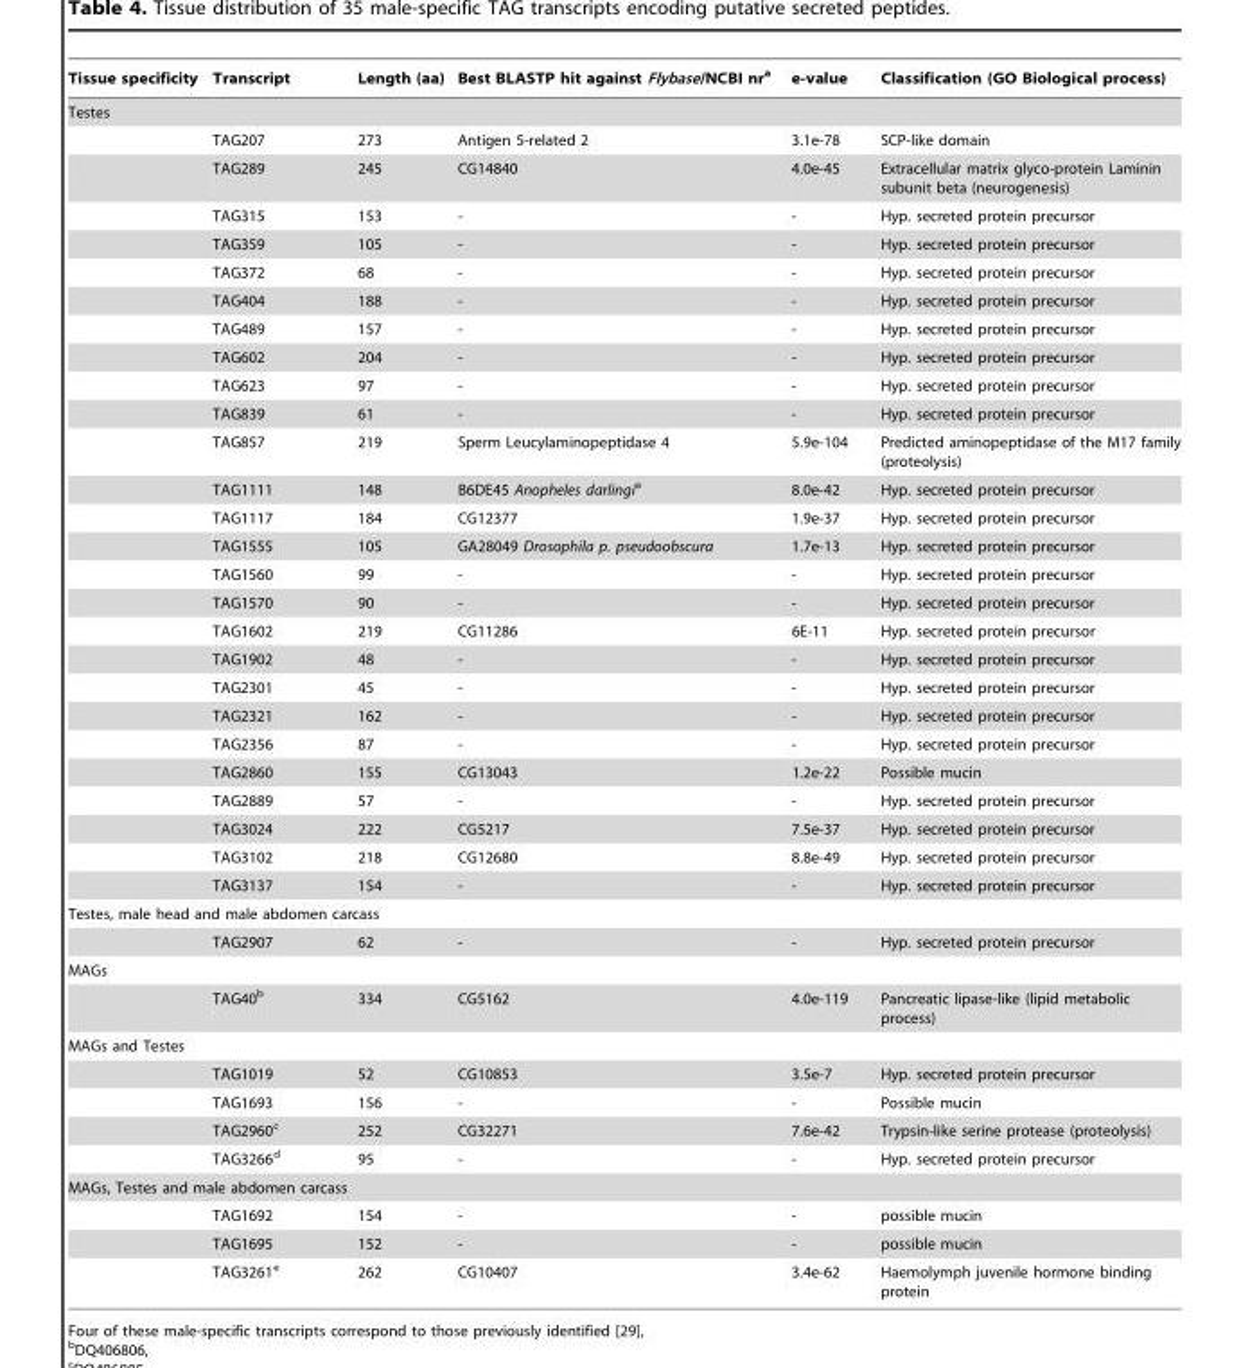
<table><thead><tr><td>Tissue specificity</td><td>Transcript</td><td>Length (aa)</td><td>Best BLASTP hit against Flybase/NCBI nr<sup>a</sup></td><td>e-value</td><td>Classification (GO Biological process)</td></tr></thead><tbody><tr><td colspan="6">Testes</td></tr><tr><td></td><td>TAG207</td><td>273</td><td>Antigen 5-related 2</td><td>3.1e-78</td><td>SCP-like domain</td></tr><tr><td></td><td>TAG289</td><td>245</td><td>CG14840</td><td>4.0e-45</td><td>Extracellular matrix glyco-protein Laminin subunit beta (neurogenesis)</td></tr><tr><td></td><td>TAG315</td><td>153</td><td>-</td><td>-</td><td>Hyp. secreted protein precursor</td></tr><tr><td></td><td>TAG359</td><td>105</td><td>-</td><td>-</td><td>Hyp. secreted protein precursor</td></tr><tr><td></td><td>TAG372</td><td>68</td><td>-</td><td>-</td><td>Hyp. secreted protein precursor</td></tr><tr><td></td><td>TAG404</td><td>188</td><td>-</td><td>-</td><td>Hyp. secreted protein precursor</td></tr><tr><td></td><td>TAG489</td><td>157</td><td>-</td><td>-</td><td>Hyp. secreted protein precursor</td></tr><tr><td></td><td>TAG602</td><td>204</td><td>-</td><td>-</td><td>Hyp. secreted protein precursor</td></tr><tr><td></td><td>TAG623</td><td>97</td><td>-</td><td>-</td><td>Hyp. secreted protein precursor</td></tr><tr><td></td><td>TAG839</td><td>61</td><td>-</td><td>-</td><td>Hyp. secreted protein precursor</td></tr><tr><td></td><td>TAG857</td><td>219</td><td>Sperm Leucylaminopeptidase 4</td><td>5.9e-104</td><td>Predicted aminopeptidase of the M17 family (proteolysis)</td></tr><tr><td></td><td>TAG1111</td><td>148</td><td>B6DE45 Anopheles darlingi<sup>a</sup></td><td>8.0e-42</td><td>Hyp. secreted protein precursor</td></tr><tr><td></td><td>TAG1117</td><td>184</td><td>CG12377</td><td>1.9e-37</td><td>Hyp. secreted protein precursor</td></tr><tr><td></td><td>TAG1555</td><td>105</td><td>GA28049 Drosophila p. pseudoobscura</td><td>1.7e-13</td><td>Hyp. secreted protein precursor</td></tr><tr><td></td><td>TAG1560</td><td>99</td><td>-</td><td>-</td><td>Hyp. secreted protein precursor</td></tr><tr><td></td><td>TAG1570</td><td>90</td><td>-</td><td>-</td><td>Hyp. secreted protein precursor</td></tr><tr><td></td><td>TAG1602</td><td>219</td><td>CG11286</td><td>6E-11</td><td>Hyp. secreted protein precursor</td></tr><tr><td></td><td>TAG1902</td><td>48</td><td>-</td><td>-</td><td>Hyp. secreted protein precursor</td></tr><tr><td></td><td>TAG2301</td><td>45</td><td>-</td><td>-</td><td>Hyp. secreted protein precursor</td></tr><tr><td></td><td>TAG2321</td><td>162</td><td>-</td><td>-</td><td>Hyp. secreted protein precursor</td></tr><tr><td></td><td>TAG2356</td><td>87</td><td>-</td><td>-</td><td>Hyp. secreted protein precursor</td></tr><tr><td></td><td>TAG2860</td><td>155</td><td>CG13043</td><td>1.2e-22</td><td>Possible mucin</td></tr><tr><td></td><td>TAG2889</td><td>57</td><td>-</td><td>-</td><td>Hyp. secreted protein precursor</td></tr><tr><td></td><td>TAG3024</td><td>222</td><td>CG5217</td><td>7.5e-37</td><td>Hyp. secreted protein precursor</td></tr><tr><td></td><td>TAG3102</td><td>218</td><td>CG12680</td><td>8.8e-49</td><td>Hyp. secreted protein precursor</td></tr><tr><td></td><td>TAG3137</td><td>154</td><td>-</td><td>-</td><td>Hyp. secreted protein precursor</td></tr><tr><td colspan="6">Testes, male head and male abdomen carcass</td></tr><tr><td></td><td>TAG2907</td><td>62</td><td>-</td><td>-</td><td>Hyp. secreted protein precursor</td></tr><tr><td colspan="6">MAGs</td></tr><tr><td></td><td>TAG40<sup>b</sup></td><td>334</td><td>CG5162</td><td>4.0e-119</td><td>Pancreatic lipase-like (lipid metabolic process)</td></tr><tr><td colspan="6">MAGs and Testes</td></tr><tr><td></td><td>TAG1019</td><td>52</td><td>CG10853</td><td>3.5e-7</td><td>Hyp. secreted protein precursor</td></tr><tr><td></td><td>TAG1693</td><td>156</td><td>-</td><td>-</td><td>Possible mucin</td></tr><tr><td></td><td>TAG2960<sup>c</sup></td><td>252</td><td>CG32271</td><td>7.6e-42</td><td>Trypsin-like serine protease (proteolysis)</td></tr><tr><td></td><td>TAG3266<sup>d</sup></td><td>95</td><td>-</td><td>-</td><td>Hyp. secreted protein precursor</td></tr><tr><td colspan="6">MAGs, Testes and male abdomen carcass</td></tr><tr><td></td><td>TAG1692</td><td>154</td><td>-</td><td>-</td><td>possible mucin</td></tr><tr><td></td><td>TAG1695</td><td>152</td><td>-</td><td>-</td><td>possible mucin</td></tr><tr><td></td><td>TAG3261<sup>e</sup></td><td>262</td><td>CG10407</td><td>3.4e-62</td><td>Haemolymph juvenile hormone binding protein</td></tr></tbody></table>